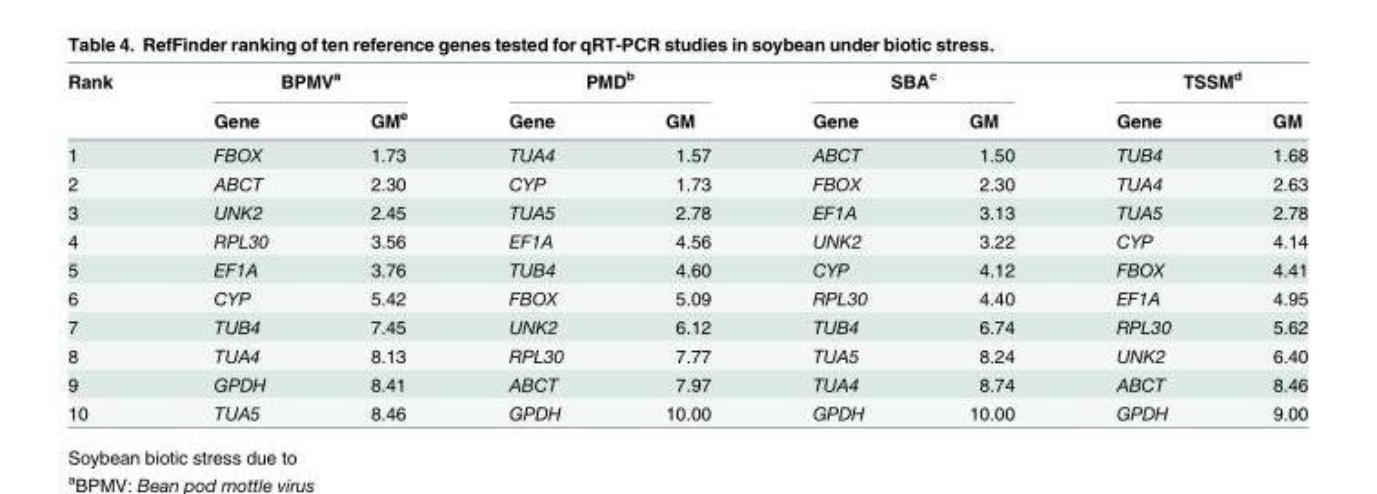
<table><thead><tr><td rowspan="2">Rank</td><td colspan="2">BPMV<sup>a</sup></td><td colspan="2">PMD<sup>b</sup></td><td colspan="2">SBA<sup>c</sup></td><td colspan="2">TSSM<sup>d</sup></td></tr><tr><td>Gene</td><td>GM<sup>e</sup></td><td>Gene</td><td>GM</td><td>Gene</td><td>GM</td><td>Gene</td><td>GM</td></tr></thead><tbody><tr><td>1</td><td>FBOX</td><td>1.73</td><td>TUA4</td><td>1.57</td><td>ABCT</td><td>1.50</td><td>TUB4</td><td>1.68</td></tr><tr><td>2</td><td>ABCT</td><td>2.30</td><td>CYP</td><td>1.73</td><td>FBOX</td><td>2.30</td><td>TUA4</td><td>2.63</td></tr><tr><td>3</td><td>UNK2</td><td>2.45</td><td>TUA5</td><td>2.78</td><td>EF1A</td><td>3.13</td><td>TUA5</td><td>2.78</td></tr><tr><td>4</td><td>RPL30</td><td>3.56</td><td>EF1A</td><td>4.56</td><td>UNK2</td><td>3.22</td><td>CYP</td><td>4.14</td></tr><tr><td>5</td><td>EF1A</td><td>3.76</td><td>TUB4</td><td>4.60</td><td>CYP</td><td>4.12</td><td>FBOX</td><td>4.41</td></tr><tr><td>6</td><td>CYP</td><td>5.42</td><td>FBOX</td><td>5.09</td><td>RPL30</td><td>4.40</td><td>EF1A</td><td>4.95</td></tr><tr><td>7</td><td>TUB4</td><td>7.45</td><td>UNK2</td><td>6.12</td><td>TUB4</td><td>6.74</td><td>RPL30</td><td>5.62</td></tr><tr><td>8</td><td>TUA4</td><td>8.13</td><td>RPL30</td><td>7.77</td><td>TUA5</td><td>8.24</td><td>UNK2</td><td>6.40</td></tr><tr><td>9</td><td>GPDH</td><td>8.41</td><td>ABCT</td><td>7.97</td><td>TUA4</td><td>8.74</td><td>ABCT</td><td>8.46</td></tr><tr><td>10</td><td>TUA5</td><td>8.46</td><td>GPDH</td><td>10.00</td><td>GPDH</td><td>10.00</td><td>GPDH</td><td>9.00</td></tr></tbody></table>